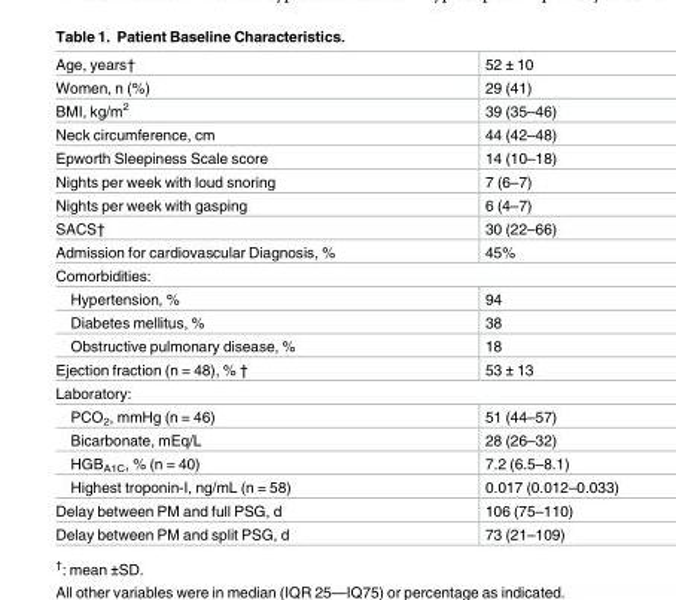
<table><tbody><tr><td>Age, years†</td><td>52 ± 10</td></tr><tr><td>Women, n (%)</td><td>29 (41)</td></tr><tr><td>BMI, kg/m<sup>2</sup></td><td>39 (35–46)</td></tr><tr><td>Neck circumference, cm</td><td>44 (42–48)</td></tr><tr><td>Epworth Sleepiness Scale score</td><td>14 (10–18)</td></tr><tr><td>Nights per week with loud snoring</td><td>7 (6–7)</td></tr><tr><td>Nights per week with gasping</td><td>6 (4–7)</td></tr><tr><td>SACS†</td><td>30 (22–66)</td></tr><tr><td>Admission for cardiovascular Diagnosis, %</td><td>45%</td></tr><tr><td colspan="2">Comorbidities:</td></tr><tr><td>Hypertension, %</td><td>94</td></tr><tr><td>Diabetes mellitus, %</td><td>38</td></tr><tr><td>Obstructive pulmonary disease, %</td><td>18</td></tr><tr><td>Ejection fraction (n = 48), % †</td><td>53 ± 13</td></tr><tr><td colspan="2">Laboratory:</td></tr><tr><td>PCO<sub>2</sub>, mmHg (n = 46)</td><td>51 (44–57)</td></tr><tr><td>Bicarbonate, mEq/L</td><td>28 (26–32)</td></tr><tr><td>HGB<sub>A1C</sub>, % (n = 40)</td><td>7.2 (6.5–8.1)</td></tr><tr><td>Highest troponin-I, ng/mL (n = 58)</td><td>0.017 (0.012–0.033)</td></tr><tr><td>Delay between PM and full PSG, d</td><td>106 (75–110)</td></tr><tr><td>Delay between PM and split PSG, d</td><td>73 (21–109)</td></tr></tbody></table>